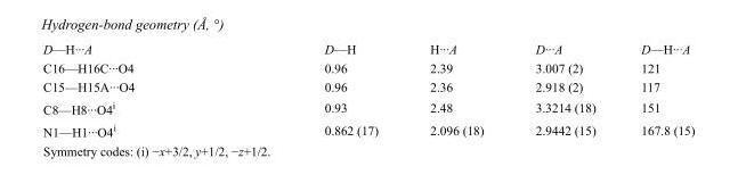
<table><tbody><tr><td>D—H···A</td><td>D—H</td><td>H···A</td><td>D···A</td><td>D—H···A</td></tr><tr><td>C16—H16C···O4</td><td>0.96</td><td>2.39</td><td>3.007 (2)</td><td>121</td></tr><tr><td>C15—H15A···O4</td><td>0.96</td><td>2.36</td><td>2.918 (2)</td><td>117</td></tr><tr><td>C8—H8···O4<sup>i</sup></td><td>0.93</td><td>2.48</td><td>3.3214 (18)</td><td>151</td></tr><tr><td>N1—H1···O4<sup>i</sup></td><td>0.862 (17)</td><td>2.096 (18)</td><td>2.9442 (15)</td><td>167.8 (15)</td></tr></tbody></table>